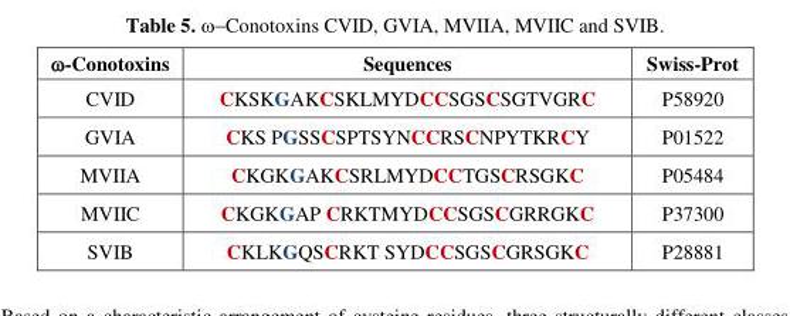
<table><thead><tr><td>ω-Conotoxins</td><td>Sequences</td><td>Swiss-Prot</td></tr></thead><tbody><tr><td>CVID</td><td>CKSKGAKCSKLMYDCCSGSCSGTVGRC</td><td>P58920</td></tr><tr><td>GVIA</td><td>CKS PGSSCSPTSYNCCRSCNPYTKRCY</td><td>P01522</td></tr><tr><td>MVIIA</td><td>CKGKGAKCSRLMYDCCTGSCRSGKC</td><td>P05484</td></tr><tr><td>MVIIC</td><td>CKGKGAP CRKTMYDCCSGSCGRRGKC</td><td>P37300</td></tr><tr><td>SVIB</td><td>CKLKGQSCRKT SYDCCSGSCGRSGKC</td><td>P28881</td></tr></tbody></table>